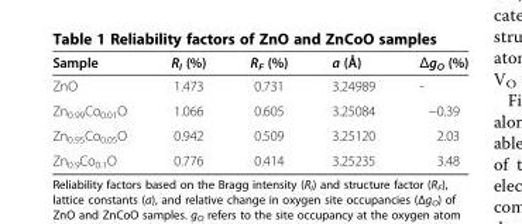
<table><thead><tr><td>Sample</td><td>R<sub>I</sub> (%)</td><td>R<sub>F</sub> (%)</td><td>a (Å)</td><td>Δg<sub>O</sub> (%)</td></tr></thead><tbody><tr><td>ZnO</td><td>1.473</td><td>0.731</td><td>3.24989</td><td>-</td></tr><tr><td>Zn<sub>0.99</sub>Co<sub>0.01</sub>O</td><td>1.066</td><td>0.605</td><td>3.25084</td><td>−0.39</td></tr><tr><td>Zn<sub>0.95</sub>Co<sub>0.05</sub>O</td><td>0.942</td><td>0.509</td><td>3.25120</td><td>2.03</td></tr><tr><td>Zn<sub>0.9</sub>Co<sub>0.1</sub>O</td><td>0.776</td><td>0.414</td><td>3.25235</td><td>3.48</td></tr></tbody></table>